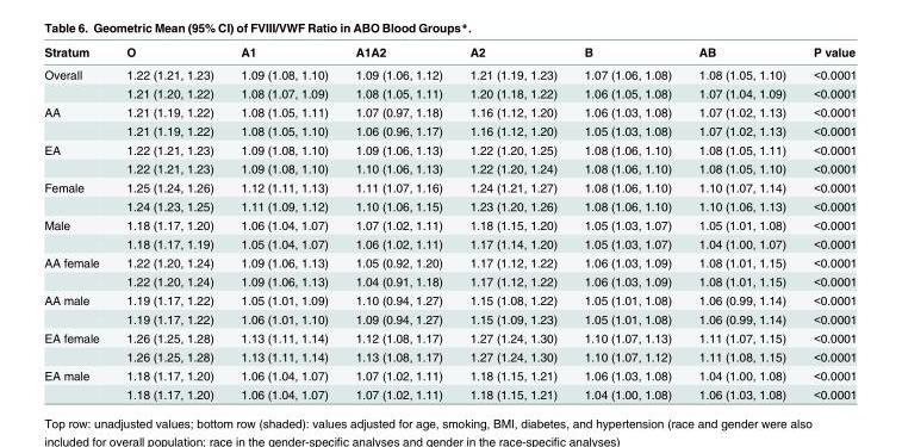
<table><thead><tr><td>Stratum</td><td>O</td><td>A1</td><td>A1A2</td><td>A2</td><td>B</td><td>AB</td><td>P value</td></tr></thead><tbody><tr><td rowspan="2">Overall</td><td>1.22 (1.21, 1.23)</td><td>1.09 (1.08, 1.10)</td><td>1.09 (1.06, 1.12)</td><td>1.21 (1.19, 1.23)</td><td>1.07 (1.06, 1.08)</td><td>1.08 (1.05, 1.10)</td><td>&lt;0.0001</td></tr><tr><td>1.21 (1.20, 1.22)</td><td>1.08 (1.07, 1.09)</td><td>1.08 (1.05, 1.11)</td><td>1.20 (1.18, 1.22)</td><td>1.06 (1.05, 1.08)</td><td>1.07 (1.04, 1.09)</td><td>&lt;0.0001</td></tr><tr><td rowspan="2">AA</td><td>1.21 (1.19, 1.22)</td><td>1.08 (1.05, 1.11)</td><td>1.07 (0.97, 1.18)</td><td>1.16 (1.12, 1.20)</td><td>1.06 (1.03, 1.08)</td><td>1.07 (1.02, 1.13)</td><td>&lt;0.0001</td></tr><tr><td>1.21 (1.19, 1.22)</td><td>1.08 (1.05, 1.10)</td><td>1.06 (0.96, 1.17)</td><td>1.16 (1.12, 1.20)</td><td>1.05 (1.03, 1.08)</td><td>1.07 (1.02, 1.13)</td><td>&lt;0.0001</td></tr><tr><td rowspan="2">EA</td><td>1.22 (1.21, 1.23)</td><td>1.09 (1.08, 1.10)</td><td>1.09 (1.06, 1.13)</td><td>1.22 (1.20, 1.25)</td><td>1.08 (1.06, 1.10)</td><td>1.08 (1.05, 1.11)</td><td>&lt;0.0001</td></tr><tr><td>1.22 (1.21, 1.23)</td><td>1.09 (1.08, 1.10)</td><td>1.10 (1.06, 1.13)</td><td>1.22 (1.20, 1.24)</td><td>1.08 (1.06, 1.10)</td><td>1.08 (1.05, 1.10)</td><td>&lt;0.0001</td></tr><tr><td rowspan="2">Female</td><td>1.25 (1.24, 1.26)</td><td>1.12 (1.11, 1.13)</td><td>1.11 (1.07, 1.16)</td><td>1.24 (1.21, 1.27)</td><td>1.08 (1.06, 1.10)</td><td>1.10 (1.07, 1.14)</td><td>&lt;0.0001</td></tr><tr><td>1.24 (1.23, 1.25)</td><td>1.11 (1.09, 1.12)</td><td>1.10 (1.06, 1.15)</td><td>1.23 (1.20, 1.26)</td><td>1.08 (1.06, 1.10)</td><td>1.10 (1.06, 1.13)</td><td>&lt;0.0001</td></tr><tr><td rowspan="2">Male</td><td>1.18 (1.17, 1.20)</td><td>1.06 (1.04, 1.07)</td><td>1.07 (1.02, 1.11)</td><td>1.18 (1.15, 1.20)</td><td>1.05 (1.03, 1.07)</td><td>1.05 (1.01, 1.08)</td><td>&lt;0.0001</td></tr><tr><td>1.18 (1.17, 1.19)</td><td>1.05 (1.04, 1.07)</td><td>1.06 (1.02, 1.11)</td><td>1.17 (1.14, 1.20)</td><td>1.05 (1.03, 1.07)</td><td>1.04 (1.00, 1.07)</td><td>&lt;0.0001</td></tr><tr><td rowspan="2">AA female</td><td>1.22 (1.20, 1.24)</td><td>1.09 (1.06, 1.13)</td><td>1.05 (0.92, 1.20)</td><td>1.17 (1.12, 1.22)</td><td>1.06 (1.03, 1.09)</td><td>1.08 (1.01, 1.15)</td><td>&lt;0.0001</td></tr><tr><td>1.22 (1.20, 1.24)</td><td>1.09 (1.06, 1.13)</td><td>1.04 (0.91, 1.18)</td><td>1.17 (1.12, 1.22)</td><td>1.06 (1.03, 1.09)</td><td>1.08 (1.01, 1.15)</td><td>&lt;0.0001</td></tr><tr><td rowspan="2">AA male</td><td>1.19 (1.17, 1.22)</td><td>1.05 (1.01, 1.09)</td><td>1.10 (0.94, 1.27)</td><td>1.15 (1.08, 1.22)</td><td>1.05 (1.01, 1.08)</td><td>1.06 (0.99, 1.14)</td><td>&lt;0.0001</td></tr><tr><td>1.19 (1.17, 1.22)</td><td>1.06 (1.01, 1.10)</td><td>1.09 (0.94, 1.27)</td><td>1.15 (1.09, 1.23)</td><td>1.05 (1.01, 1.08)</td><td>1.06 (0.99, 1.14)</td><td>&lt;0.0001</td></tr><tr><td rowspan="2">EA female</td><td>1.26 (1.25, 1.28)</td><td>1.13 (1.11, 1.14)</td><td>1.12 (1.08, 1.17)</td><td>1.27 (1.24, 1.30)</td><td>1.10 (1.07, 1.13)</td><td>1.11 (1.07, 1.15)</td><td>&lt;0.0001</td></tr><tr><td>1.26 (1.25, 1.28)</td><td>1.13 (1.11, 1.14)</td><td>1.13 (1.08, 1.17)</td><td>1.27 (1.24, 1.30)</td><td>1.10 (1.07, 1.12)</td><td>1.11 (1.08, 1.15)</td><td>&lt;0.0001</td></tr><tr><td rowspan="2">EA male</td><td>1.18 (1.17, 1.20)</td><td>1.06 (1.04, 1.07)</td><td>1.07 (1.02, 1.11)</td><td>1.18 (1.15, 1.21)</td><td>1.06 (1.03, 1.08)</td><td>1.04 (1.00, 1.08)</td><td>&lt;0.0001</td></tr><tr><td>1.18 (1.17, 1.20)</td><td>1.06 (1.04, 1.07)</td><td>1.07 (1.02, 1.11)</td><td>1.18 (1.15, 1.21)</td><td>1.04 (1.00, 1.08)</td><td>1.06 (1.03, 1.08)</td><td>&lt;0.0001</td></tr></tbody></table>